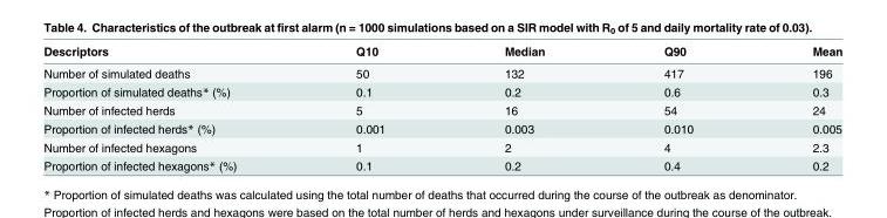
<table><thead><tr><td>Descriptors</td><td>Q10</td><td>Median</td><td>Q90</td><td>Mean</td></tr></thead><tbody><tr><td>Number of simulated deaths</td><td>50</td><td>132</td><td>417</td><td>196</td></tr><tr><td>Proportion of simulated deaths* (%)</td><td>0.1</td><td>0.2</td><td>0.6</td><td>0.3</td></tr><tr><td>Number of infected herds</td><td>5</td><td>16</td><td>54</td><td>24</td></tr><tr><td>Proportion of infected herds* (%)</td><td>0.001</td><td>0.003</td><td>0.010</td><td>0.005</td></tr><tr><td>Number of infected hexagons</td><td>1</td><td>2</td><td>4</td><td>2.3</td></tr><tr><td>Proportion of infected hexagons* (%)</td><td>0.1</td><td>0.2</td><td>0.4</td><td>0.2</td></tr></tbody></table>